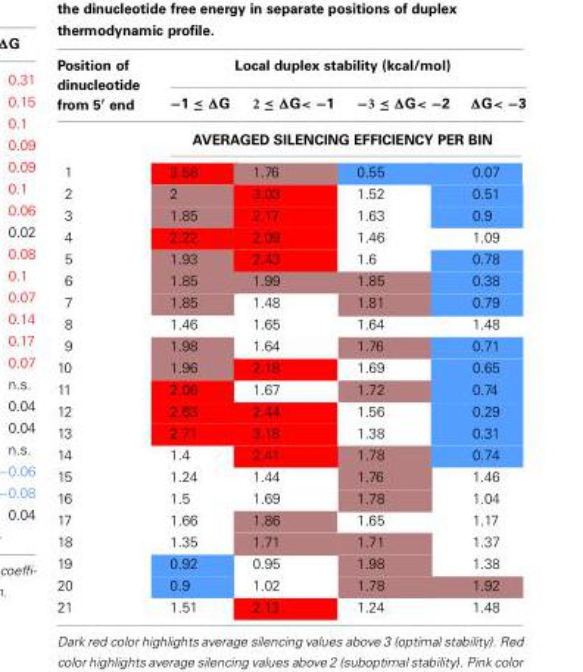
<table><thead><tr><td rowspan="2">Position of dinucleotide from 5′ end</td><td colspan="4">Local duplex stability (kcal/mol)</td></tr><tr><td>−1 ≤ ΔG</td><td>2 ≤ ΔG&lt; −1</td><td>−3 ≤ ΔG&lt; −2</td><td>ΔG&lt; −3</td></tr></thead><tbody><tr><td></td><td colspan="4">AVERAGED SILENCING EFFICIENCY PER BIN</td></tr><tr><td>1</td><td>3.58</td><td>1.76</td><td>0.55</td><td>0.07</td></tr><tr><td>2</td><td>2</td><td>3.03</td><td>1.52</td><td>0.51</td></tr><tr><td>3</td><td>1.85</td><td>2.17</td><td>1.63</td><td>0.9</td></tr><tr><td>4</td><td>2.22</td><td>2.09</td><td>1.46</td><td>1.09</td></tr><tr><td>5</td><td>1.93</td><td>2.43</td><td>1.6</td><td>0.78</td></tr><tr><td>6</td><td>1.85</td><td>1.99</td><td>1.85</td><td>0.38</td></tr><tr><td>7</td><td>1.85</td><td>1.48</td><td>1.81</td><td>0.79</td></tr><tr><td>8</td><td>1.46</td><td>1.65</td><td>1.64</td><td>1.48</td></tr><tr><td>9</td><td>1.98</td><td>1.64</td><td>1.76</td><td>0.71</td></tr><tr><td>10</td><td>1.96</td><td>2.18</td><td>1.69</td><td>0.65</td></tr><tr><td>11</td><td>2.06</td><td>1.67</td><td>1.72</td><td>0.74</td></tr><tr><td>12</td><td>2.63</td><td>2.44</td><td>1.56</td><td>0.29</td></tr><tr><td>13</td><td>2.71</td><td>3.18</td><td>1.38</td><td>0.31</td></tr><tr><td>14</td><td>1.4</td><td>2.41</td><td>1.78</td><td>0.74</td></tr><tr><td>15</td><td>1.24</td><td>1.44</td><td>1.76</td><td>1.46</td></tr><tr><td>16</td><td>1.5</td><td>1.69</td><td>1.78</td><td>1.04</td></tr><tr><td>17</td><td>1.66</td><td>1.86</td><td>1.65</td><td>1.17</td></tr><tr><td>18</td><td>1.35</td><td>1.71</td><td>1.71</td><td>1.37</td></tr><tr><td>19</td><td>0.92</td><td>0.95</td><td>1.98</td><td>1.38</td></tr><tr><td>20</td><td>0.9</td><td>1.02</td><td>1.78</td><td>1.92</td></tr><tr><td>21</td><td>1.51</td><td>2.13</td><td>1.24</td><td>1.48</td></tr></tbody></table>